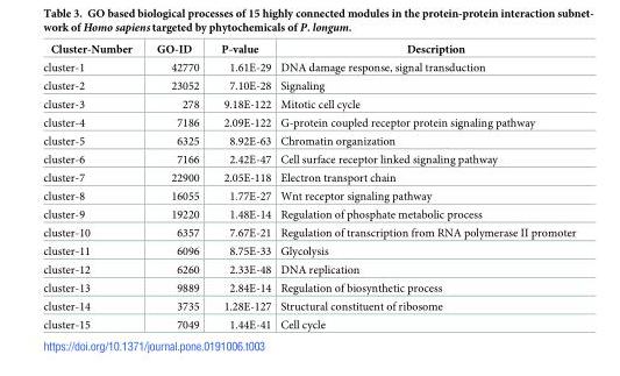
<table><thead><tr><td>Cluster-Number</td><td>GO-ID</td><td>P-value</td><td>Description</td></tr></thead><tbody><tr><td>cluster-1</td><td>42770</td><td>1.61E-29</td><td>DNA damage response, signal transduction</td></tr><tr><td>cluster-2</td><td>23052</td><td>7.10E-28</td><td>Signaling</td></tr><tr><td>cluster-3</td><td>278</td><td>9.18E-122</td><td>Mitotic cell cycle</td></tr><tr><td>cluster-4</td><td>7186</td><td>2.09E-122</td><td>G-protein coupled receptor protein signaling pathway</td></tr><tr><td>cluster-5</td><td>6325</td><td>8.92E-63</td><td>Chromatin organization</td></tr><tr><td>cluster-6</td><td>7166</td><td>2.42E-47</td><td>Cell surface receptor linked signaling pathway</td></tr><tr><td>cluster-7</td><td>22900</td><td>2.05E-118</td><td>Electron transport chain</td></tr><tr><td>cluster-8</td><td>16055</td><td>1.77E-27</td><td>Wnt receptor signaling pathway</td></tr><tr><td>cluster-9</td><td>19220</td><td>1.48E-14</td><td>Regulation of phosphate metabolic process</td></tr><tr><td>cluster-10</td><td>6357</td><td>7.67E-21</td><td>Regulation of transcription from RNA polymerase II promoter</td></tr><tr><td>cluster-11</td><td>6096</td><td>8.75E-33</td><td>Glycolysis</td></tr><tr><td>cluster-12</td><td>6260</td><td>2.33E-48</td><td>DNA replication</td></tr><tr><td>cluster-13</td><td>9889</td><td>2.84E-14</td><td>Regulation of biosynthetic process</td></tr><tr><td>cluster-14</td><td>3735</td><td>1.28E-127</td><td>Structural constituent of ribosome</td></tr><tr><td>cluster-15</td><td>7049</td><td>1.44E-41</td><td>Cell cycle</td></tr></tbody></table>